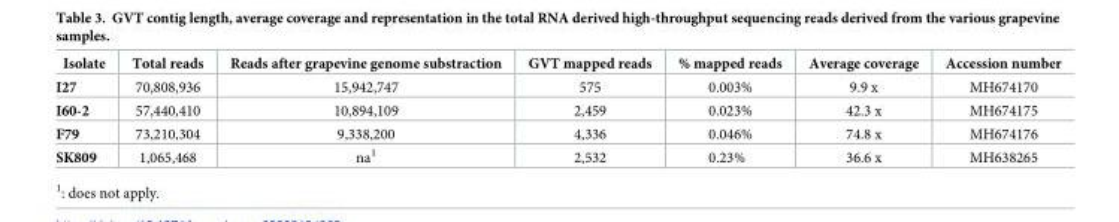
<table><thead><tr><td>Isolate</td><td>Total reads</td><td>Reads after grapevine genome substraction</td><td>GVT mapped reads</td><td>% mapped reads</td><td>Average coverage</td><td>Accession number</td></tr></thead><tbody><tr><td>I27</td><td>70,808,936</td><td>15,942,747</td><td>575</td><td>0.003%</td><td>9.9 x</td><td>MH674170</td></tr><tr><td>I60-2</td><td>57,440,410</td><td>10,894,109</td><td>2,459</td><td>0.023%</td><td>42.3 x</td><td>MH674175</td></tr><tr><td>F79</td><td>73,210,304</td><td>9,338,200</td><td>4,336</td><td>0.046%</td><td>74.8 x</td><td>MH674176</td></tr><tr><td>SK809</td><td>1,065,468</td><td>na<sup>1</sup></td><td>2,532</td><td>0.23%</td><td>36.6 x</td><td>MH638265</td></tr></tbody></table>